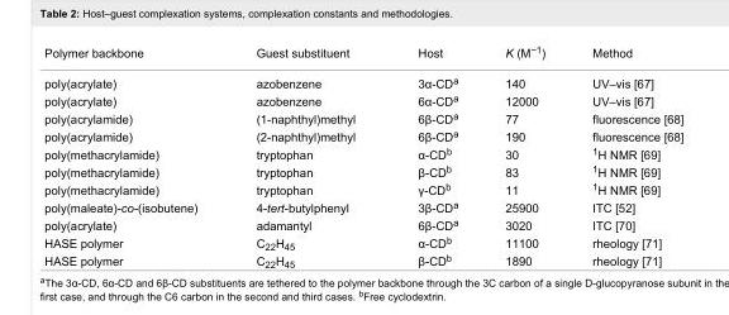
<table><tbody><tr><td>Polymer backbone</td><td>Guest substituent</td><td>Host</td><td>K (M<sup>−1</sup>)</td><td>Method</td></tr><tr><td>poly(acrylate)</td><td>azobenzene</td><td>3α-CD<sup>a</sup></td><td>140</td><td>UV–vis [67]</td></tr><tr><td>poly(acrylate)</td><td>azobenzene</td><td>6α-CD<sup>a</sup></td><td>12000</td><td>UV–vis [67]</td></tr><tr><td>poly(acrylamide)</td><td>(1-naphthyl)methyl</td><td>6β-CD<sup>a</sup></td><td>77</td><td>fluorescence [68]</td></tr><tr><td>poly(acrylamide)</td><td>(2-naphthyl)methyl</td><td>6β-CD<sup>a</sup></td><td>190</td><td>fluorescence [68]</td></tr><tr><td>poly(methacrylamide)</td><td>tryptophan</td><td>α-CD<sup>b</sup></td><td>30</td><td><sup>1</sup>H NMR [69]</td></tr><tr><td>poly(methacrylamide)</td><td>tryptophan</td><td>β-CD<sup>b</sup></td><td>83</td><td><sup>1</sup>H NMR [69]</td></tr><tr><td>poly(methacrylamide)</td><td>tryptophan</td><td>γ-CD<sup>b</sup></td><td>11</td><td><sup>1</sup>H NMR [69]</td></tr><tr><td>poly(maleate)-co-(isobutene)</td><td>4-tert-butylphenyl</td><td>3β-CD<sup>a</sup></td><td>25900</td><td>ITC [52]</td></tr><tr><td>poly(acrylate)</td><td>adamantyl</td><td>6β-CD<sup>a</sup></td><td>3020</td><td>ITC [70]</td></tr><tr><td>HASE polymer</td><td>C<sub>22</sub>H<sub>45</sub></td><td>α-CD<sup>b</sup></td><td>11100</td><td>rheology [71]</td></tr><tr><td>HASE polymer</td><td>C<sub>22</sub>H<sub>45</sub></td><td>β-CD<sup>b</sup></td><td>1890</td><td>rheology [71]</td></tr></tbody></table>